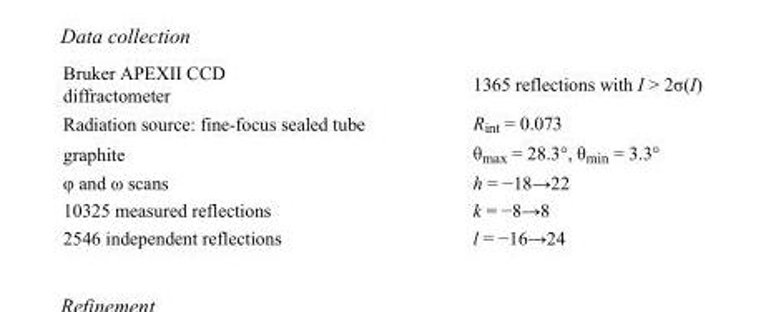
<table><tbody><tr><td>Bruker APEXII CCD diffractometer</td><td>1365 reflections with I &gt; 2σ(I)</td></tr><tr><td>Radiation source: fine-focus sealed tube</td><td>R<sub>int</sub> = 0.073</td></tr><tr><td>graphite</td><td>θ<sub>max</sub> = 28.3°, θ<sub>min</sub> = 3.3°</td></tr><tr><td>φ and ω scans</td><td>h = −18→22</td></tr><tr><td>10325 measured reflections</td><td>k = −8→8</td></tr><tr><td>2546 independent reflections</td><td>l = −16→24</td></tr></tbody></table>